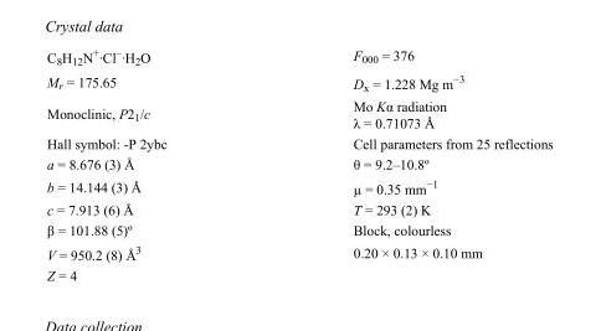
<table><tbody><tr><td>C<sub>8</sub>H<sub>12</sub>N<sup>+</sup>·Cl<sup>–</sup>·H<sub>2</sub>O</td><td>F<sub>000</sub> = 376</td></tr><tr><td>M<sub>r</sub> = 175.65</td><td>D<sub>x</sub> = 1.228 Mg m<sup>−3</sup></td></tr><tr><td>Monoclinic, P2<sub>1</sub>/c</td><td>Mo Kα radiation λ = 0.71073 Å</td></tr><tr><td>Hall symbol: -P 2ybc</td><td>Cell parameters from 25 reflections</td></tr><tr><td>a = 8.676 (3) Å</td><td>θ = 9.2–10.8º</td></tr><tr><td>b = 14.144 (3) Å</td><td>µ = 0.35 mm<sup>−1</sup></td></tr><tr><td>c = 7.913 (6) Å</td><td>T = 293 (2) K</td></tr><tr><td>β = 101.88 (5)º</td><td>Block, colourless</td></tr><tr><td>V = 950.2 (8) Å<sup>3</sup></td><td>0.20 × 0.13 × 0.10 mm</td></tr><tr><td>Z = 4</td><td></td></tr></tbody></table>